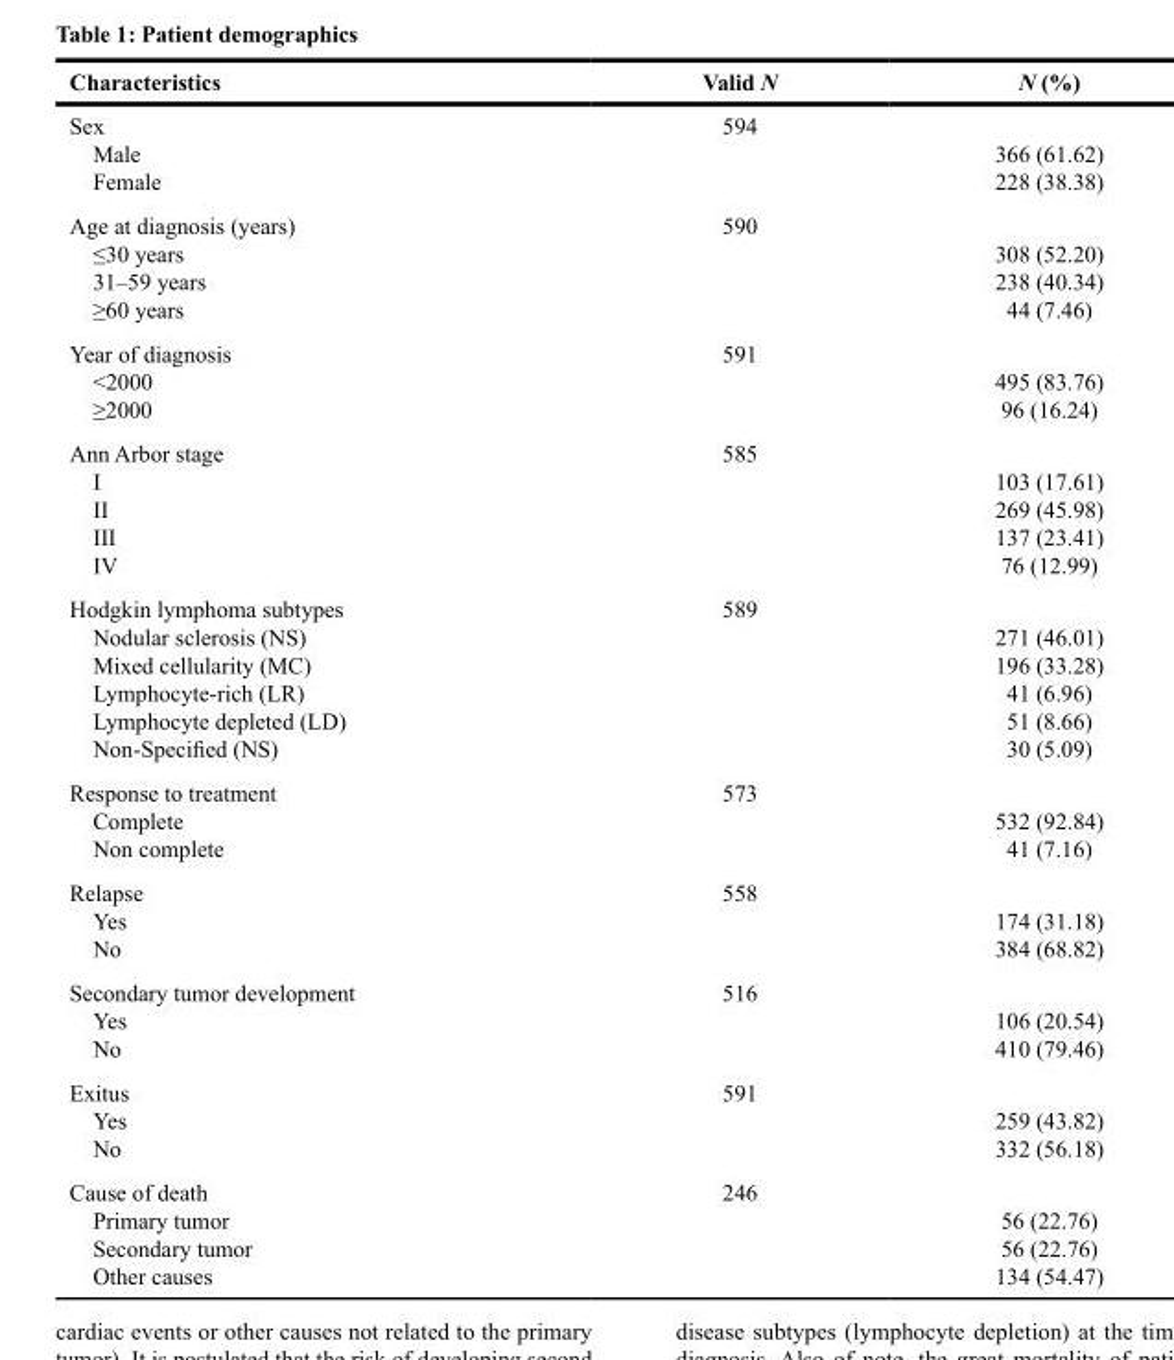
<table><thead><tr><td>Characteristics</td><td>Valid N</td><td>N (%)</td></tr></thead><tbody><tr><td>Sex</td><td>594</td><td></td></tr><tr><td>Male</td><td></td><td>366 (61.62)</td></tr><tr><td>Female</td><td></td><td>228 (38.38)</td></tr><tr><td>Age at diagnosis (years)</td><td>590</td><td></td></tr><tr><td>≤30 years</td><td></td><td>308 (52.20)</td></tr><tr><td>31–59 years</td><td></td><td>238 (40.34)</td></tr><tr><td>≥60 years</td><td></td><td>44 (7.46)</td></tr><tr><td>Year of diagnosis</td><td>591</td><td></td></tr><tr><td>&lt;2000</td><td></td><td>495 (83.76)</td></tr><tr><td>≥2000</td><td></td><td>96 (16.24)</td></tr><tr><td>Ann Arbor stage</td><td>585</td><td></td></tr><tr><td>I</td><td></td><td>103 (17.61)</td></tr><tr><td>II</td><td></td><td>269 (45.98)</td></tr><tr><td>III</td><td></td><td>137 (23.41)</td></tr><tr><td>IV</td><td></td><td>76 (12.99)</td></tr><tr><td>Hodgkin lymphoma subtypes</td><td>589</td><td></td></tr><tr><td>Nodular sclerosis (NS)</td><td></td><td>271 (46.01)</td></tr><tr><td>Mixed cellularity (MC)</td><td></td><td>196 (33.28)</td></tr><tr><td>Lymphocyte-rich (LR)</td><td></td><td>41 (6.96)</td></tr><tr><td>Lymphocyte depleted (LD)</td><td></td><td>51 (8.66)</td></tr><tr><td>Non-Specified (NS)</td><td></td><td>30 (5.09)</td></tr><tr><td>Response to treatment</td><td>573</td><td></td></tr><tr><td>Complete</td><td></td><td>532 (92.84)</td></tr><tr><td>Non complete</td><td></td><td>41 (7.16)</td></tr><tr><td>Relapse</td><td>558</td><td></td></tr><tr><td>Yes</td><td></td><td>174 (31.18)</td></tr><tr><td>No</td><td></td><td>384 (68.82)</td></tr><tr><td>Secondary tumor development</td><td>516</td><td></td></tr><tr><td>Yes</td><td></td><td>106 (20.54)</td></tr><tr><td>No</td><td></td><td>410 (79.46)</td></tr><tr><td>Exitus</td><td>591</td><td></td></tr><tr><td>Yes</td><td></td><td>259 (43.82)</td></tr><tr><td>No</td><td></td><td>332 (56.18)</td></tr><tr><td>Cause of death</td><td>246</td><td></td></tr><tr><td>Primary tumor</td><td></td><td>56 (22.76)</td></tr><tr><td>Secondary tumor</td><td></td><td>56 (22.76)</td></tr><tr><td>Other causes</td><td></td><td>134 (54.47)</td></tr></tbody></table>